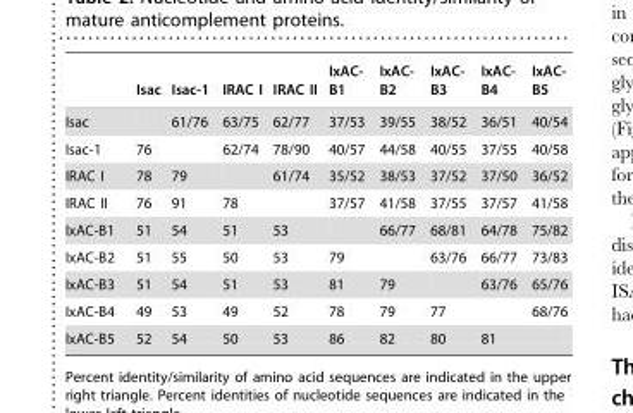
<table><thead><tr><td></td><td>Isac</td><td>Isac-1</td><td>IRAC I</td><td>IRAC II</td><td>IxAC- B1</td><td>IxAC- B2</td><td>IxAC- B3</td><td>IxAC- B4</td><td>IxAC- B5</td></tr></thead><tbody><tr><td>Isac</td><td></td><td>61/76</td><td>63/75</td><td>62/77</td><td>37/53</td><td>39/55</td><td>38/52</td><td>36/51</td><td>40/54</td></tr><tr><td>Isac-1</td><td>76</td><td></td><td>62/74</td><td>78/90</td><td>40/57</td><td>44/58</td><td>40/55</td><td>37/55</td><td>40/58</td></tr><tr><td>IRAC I</td><td>78</td><td>79</td><td></td><td>61/74</td><td>35/52</td><td>38/53</td><td>37/52</td><td>37/50</td><td>36/52</td></tr><tr><td>IRAC II</td><td>76</td><td>91</td><td>78</td><td></td><td>37/57</td><td>41/58</td><td>37/55</td><td>37/57</td><td>41/58</td></tr><tr><td>IxAC-B1</td><td>51</td><td>54</td><td>51</td><td>53</td><td></td><td>66/77</td><td>68/81</td><td>64/78</td><td>75/82</td></tr><tr><td>IxAC-B2</td><td>51</td><td>55</td><td>50</td><td>53</td><td>79</td><td></td><td>63/76</td><td>66/77</td><td>73/83</td></tr><tr><td>IxAC-B3</td><td>51</td><td>54</td><td>51</td><td>53</td><td>81</td><td>79</td><td></td><td>63/76</td><td>65/76</td></tr><tr><td>IxAC-B4</td><td>49</td><td>53</td><td>49</td><td>52</td><td>78</td><td>79</td><td>77</td><td></td><td>68/76</td></tr><tr><td>IxAC-B5</td><td>52</td><td>54</td><td>50</td><td>53</td><td>86</td><td>82</td><td>80</td><td>81</td><td></td></tr></tbody></table>